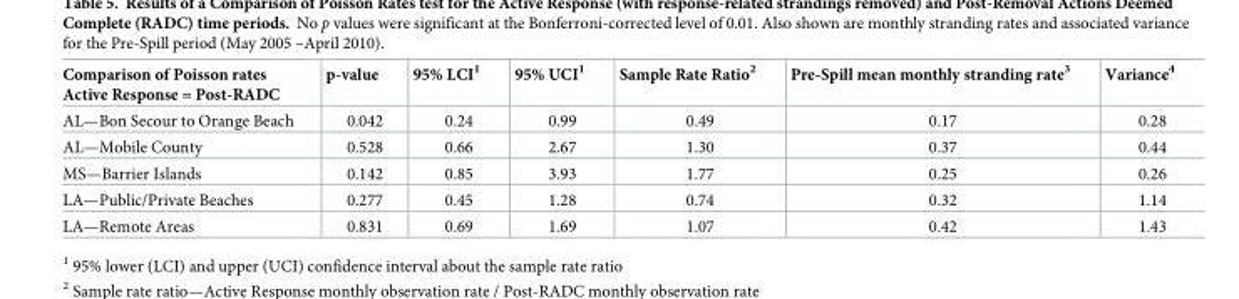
<table><thead><tr><td>Comparison of Poisson rates Active Response = Post-RADC</td><td>p-value</td><td>95% LCI<sup>1</sup></td><td>95% UCI<sup>1</sup></td><td>Sample Rate Ratio<sup>2</sup></td><td>Pre-Spill mean monthly stranding rate<sup>3</sup></td><td>Variance<sup>4</sup></td></tr></thead><tbody><tr><td>AL—Bon Secour to Orange Beach</td><td>0.042</td><td>0.24</td><td>0.99</td><td>0.49</td><td>0.17</td><td>0.28</td></tr><tr><td>AL—Mobile County</td><td>0.528</td><td>0.66</td><td>2.67</td><td>1.30</td><td>0.37</td><td>0.44</td></tr><tr><td>MS—Barrier Islands</td><td>0.142</td><td>0.85</td><td>3.93</td><td>1.77</td><td>0.25</td><td>0.26</td></tr><tr><td>LA—Public/Private Beaches</td><td>0.277</td><td>0.45</td><td>1.28</td><td>0.74</td><td>0.32</td><td>1.14</td></tr><tr><td>LA—Remote Areas</td><td>0.831</td><td>0.69</td><td>1.69</td><td>1.07</td><td>0.42</td><td>1.43</td></tr></tbody></table>